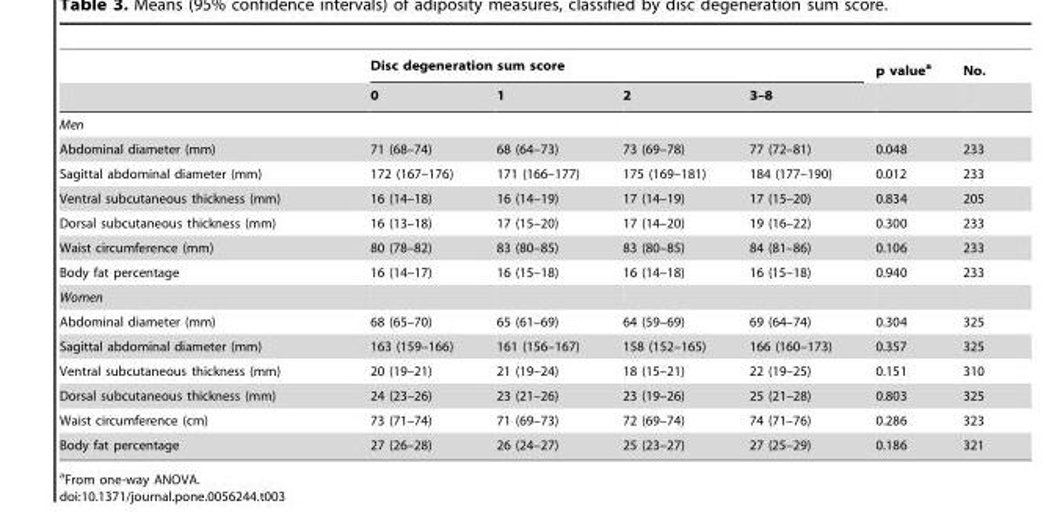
<table><thead><tr><td rowspan="2"></td><td colspan="4">Disc degeneration sum score</td><td rowspan="2">p value<sup>a</sup></td><td rowspan="2">No.</td></tr><tr><td>0</td><td>1</td><td>2</td><td>3–8</td></tr></thead><tbody><tr><td colspan="7">Men</td></tr><tr><td>Abdominal diameter (mm)</td><td>71 (68–74)</td><td>68 (64–73)</td><td>73 (69–78)</td><td>77 (72–81)</td><td>0.048</td><td>233</td></tr><tr><td>Sagittal abdominal diameter (mm)</td><td>172 (167–176)</td><td>171 (166–177)</td><td>175 (169–181)</td><td>184 (177–190)</td><td>0.012</td><td>233</td></tr><tr><td>Ventral subcutaneous thickness (mm)</td><td>16 (14–18)</td><td>16 (14–19)</td><td>17 (14–19)</td><td>17 (15–20)</td><td>0.834</td><td>205</td></tr><tr><td>Dorsal subcutaneous thickness (mm)</td><td>16 (13–18)</td><td>17 (15–20)</td><td>17 (14–20)</td><td>19 (16–22)</td><td>0.300</td><td>233</td></tr><tr><td>Waist circumference (mm)</td><td>80 (78–82)</td><td>83 (80–85)</td><td>83 (80–85)</td><td>84 (81–86)</td><td>0.106</td><td>233</td></tr><tr><td>Body fat percentage</td><td>16 (14–17)</td><td>16 (15–18)</td><td>16 (14–18)</td><td>16 (15–18)</td><td>0.940</td><td>233</td></tr><tr><td colspan="7">Women</td></tr><tr><td>Abdominal diameter (mm)</td><td>68 (65–70)</td><td>65 (61–69)</td><td>64 (59–69)</td><td>69 (64–74)</td><td>0.304</td><td>325</td></tr><tr><td>Sagittal abdominal diameter (mm)</td><td>163 (159–166)</td><td>161 (156–167)</td><td>158 (152–165)</td><td>166 (160–173)</td><td>0.357</td><td>325</td></tr><tr><td>Ventral subcutaneous thickness (mm)</td><td>20 (19–21)</td><td>21 (19–24)</td><td>18 (15–21)</td><td>22 (19–25)</td><td>0.151</td><td>310</td></tr><tr><td>Dorsal subcutaneous thickness (mm)</td><td>24 (23–26)</td><td>23 (21–26)</td><td>23 (19–26)</td><td>25 (21–28)</td><td>0.803</td><td>325</td></tr><tr><td>Waist circumference (cm)</td><td>73 (71–74)</td><td>71 (69–73)</td><td>72 (69–74)</td><td>74 (71–76)</td><td>0.286</td><td>323</td></tr><tr><td>Body fat percentage</td><td>27 (26–28)</td><td>26 (24–27)</td><td>25 (23–27)</td><td>27 (25–29)</td><td>0.186</td><td>321</td></tr></tbody></table>